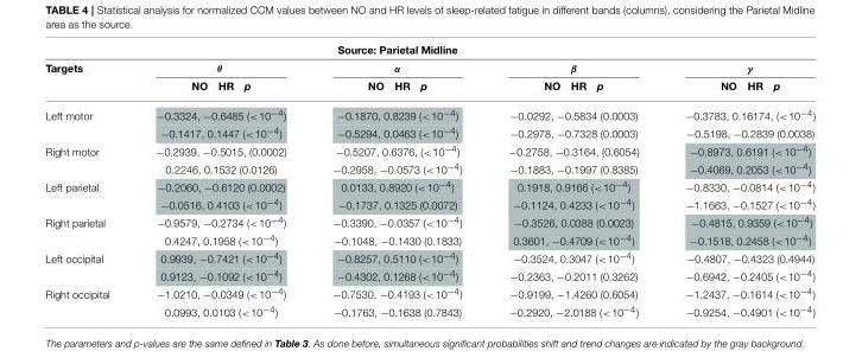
<table><thead><tr><td rowspan="3">Targets</td><td rowspan="3">θ NO HR p</td><td rowspan="3">Source: Parietal Midline α NO HR p</td><td rowspan="3">β NO HR p</td><td rowspan="3">γ NO HR p</td></tr><tr></tr><tr></tr></thead><tbody><tr><td rowspan="2">Left motor</td><td>−0.3324, −0.6485 (&lt;10<sup>−4</sup>)</td><td>−0.1870, 0.8239 (&lt;10<sup>−4</sup>)</td><td>−0.0292, −0.5834 (0.0003)</td><td>−0.3783, 0.16174, (&lt;10<sup>−4</sup>)</td></tr><tr><td>−0.1417, 0.1447 (&lt;10<sup>−4</sup>)</td><td>−0.5294, 0.0463 (&lt;10<sup>−4</sup>)</td><td>−0.2978, −0.7328 (0.0003)</td><td>−0.5198, −0.2839 (0.0038)</td></tr><tr><td rowspan="2">Right motor</td><td>−0.2939, −0.5015, (0.0002)</td><td>−0.5207, 0.6376, (&lt;10<sup>−4</sup>)</td><td>−0.2758, −0.3164, (0.6054)</td><td>−0.8973, 0.6191 (&lt;10<sup>−4</sup>)</td></tr><tr><td>0.2246, 0.1532 (0.0126)</td><td>−0.2958, −0.0573 (&lt;10<sup>−4</sup>)</td><td>−0.1883, −0.1997 (0.8385)</td><td>−0.4069, 0.2053 (&lt;10<sup>−4</sup>)</td></tr><tr><td rowspan="2">Left parietal</td><td>−0.2060, −0.6120 (0.0002)</td><td>0.0133, 0.8920 (&lt;10<sup>−4</sup>)</td><td>0.1918, 0.9166 (&lt;10<sup>−4</sup>)</td><td>−0.8330, −0.0814 (&lt;10<sup>−4</sup>)</td></tr><tr><td>−0.0516, 0.4103 (&lt;10<sup>−4</sup>)</td><td>−0.1737, 0.1325 (0.0072)</td><td>−0.1124, 0.4233 (&lt;10<sup>−4</sup>)</td><td>−1.1663, −0.1527 (&lt;10<sup>−4</sup>)</td></tr><tr><td rowspan="2">Right parietal</td><td>−0.9579, −0.2734 (&lt;10<sup>−4</sup>)</td><td>−0.3390, −0.0357 (&lt;10<sup>−4</sup>)</td><td>−0.3526, 0.0388 (0.0023)</td><td>−0.4815, 0.9359 (&lt;10<sup>−4</sup>)</td></tr><tr><td>0.4247, 0.1958 (&lt;10<sup>−4</sup>)</td><td>−0.1048, −0.1430 (0.1833)</td><td>0.3601, −0.4709 (&lt;10<sup>−4</sup>)</td><td>−0.1518, 0.2458 (&lt;10<sup>−4</sup>)</td></tr><tr><td rowspan="2">Left occipital</td><td>0.9939, −0.7421 (&lt;10<sup>−4</sup>)</td><td>−0.8257, 0.5110 (&lt;10<sup>−4</sup>)</td><td>−0.3524, 0.3047 (&lt;10<sup>−4</sup>)</td><td>−0.4807, −0.4323 (0.4944)</td></tr><tr><td>0.9123, −0.1092 (&lt;10<sup>−4</sup>)</td><td>−0.4302, 0.1268 (&lt;10<sup>−4</sup>)</td><td>−0.2363, −0.2011 (0.3262)</td><td>−0.6942, −0.2405 (&lt;10<sup>−4</sup>)</td></tr><tr><td rowspan="2">Right occipital</td><td>−1.0210, −0.0349 (&lt;10<sup>−4</sup>)</td><td>−0.7530, −0.4193 (&lt;10<sup>−4</sup>)</td><td>−0.9199, −1.4260 (0.6054)</td><td>−1.2437, −0.1614 (&lt;10<sup>−4</sup>)</td></tr><tr><td>0.0993, 0.0103 (&lt;10<sup>−4</sup>)</td><td>−0.1763, −0.1638 (0.7843)</td><td>−0.2920, −2.0188 (&lt;10<sup>−4</sup>)</td><td>−0.9254, −0.4901 (&lt;10<sup>−4</sup>)</td></tr></tbody></table>